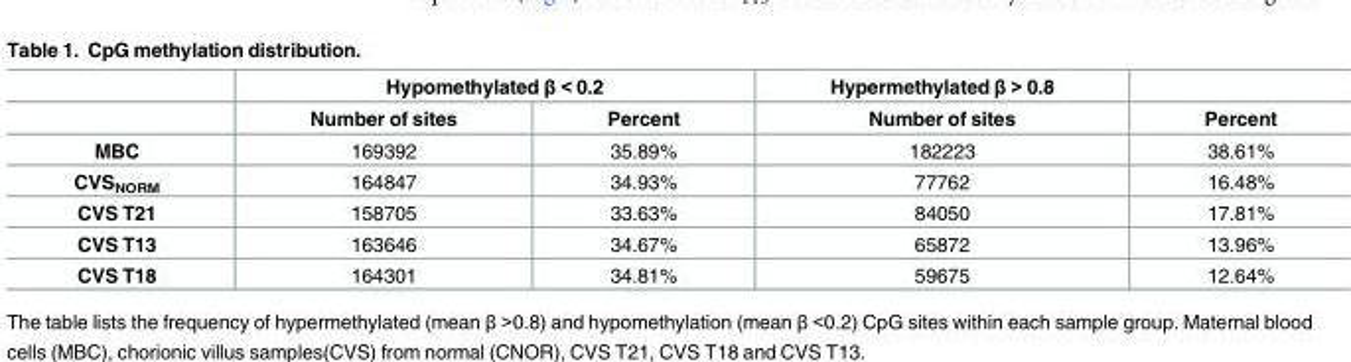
<table><thead><tr><td rowspan="2"></td><td colspan="2">Hypomethylated β &lt; 0.2</td><td rowspan="2">Hypermethylated β &gt; 0.8 Number of sites</td><td rowspan="2">Percent</td></tr><tr><td>Number of sites</td><td>Percent</td></tr></thead><tbody><tr><td>MBC</td><td>169392</td><td>35.89%</td><td>182223</td><td>38.61%</td></tr><tr><td>CVS<sub>NORM</sub></td><td>164847</td><td>34.93%</td><td>77762</td><td>16.48%</td></tr><tr><td>CVS T21</td><td>158705</td><td>33.63%</td><td>84050</td><td>17.81%</td></tr><tr><td>CVS T13</td><td>163646</td><td>34.67%</td><td>65872</td><td>13.96%</td></tr><tr><td>CVS T18</td><td>164301</td><td>34.81%</td><td>59675</td><td>12.64%</td></tr></tbody></table>